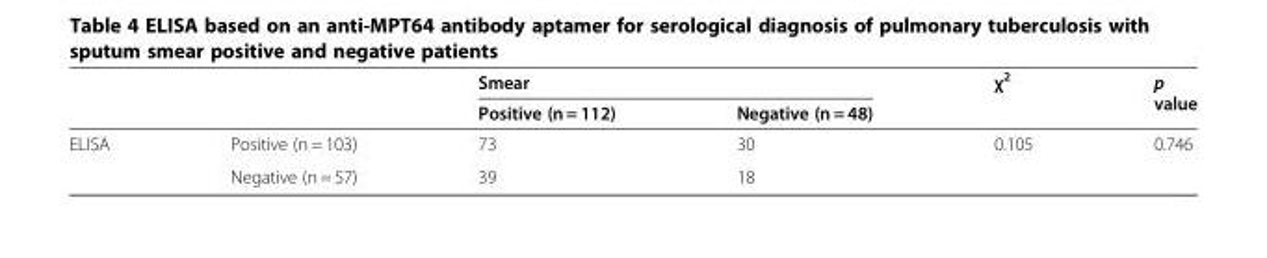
<table><thead><tr><td rowspan="2"></td><td rowspan="2"></td><td colspan="2">Smear</td><td rowspan="2">χ<sup>2</sup></td><td rowspan="2">p value</td></tr><tr><td>Positive (n = 112)</td><td>Negative (n = 48)</td></tr></thead><tbody><tr><td rowspan="2">ELISA</td><td>Positive (n = 103)</td><td>73</td><td>30</td><td>0.105</td><td>0.746</td></tr><tr><td>Negative (n = 57)</td><td>39</td><td>18</td><td></td><td></td></tr></tbody></table>